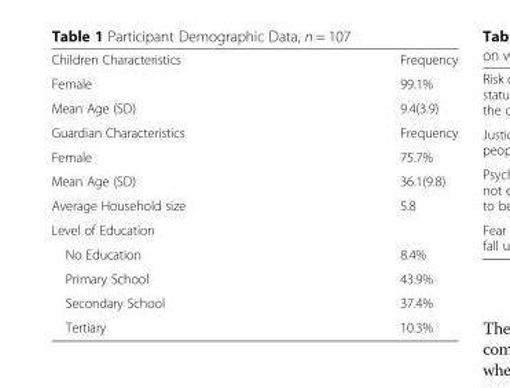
<table><tbody><tr><td>Children Characteristics</td><td>Frequency</td></tr><tr><td>Female</td><td>99.1%</td></tr><tr><td>Mean Age (SD)</td><td>9.4(3.9)</td></tr><tr><td>Guardian Characteristics</td><td>Frequency</td></tr><tr><td>Female</td><td>75.7%</td></tr><tr><td>Mean Age (SD)</td><td>36.1(9.8)</td></tr><tr><td>Average Household size</td><td>5.8</td></tr><tr><td colspan="2">Level of Education</td></tr><tr><td>No Education</td><td>8.4%</td></tr><tr><td>Primary School</td><td>43.9%</td></tr><tr><td>Secondary School</td><td>37.4%</td></tr><tr><td>Tertiary</td><td>10.3%</td></tr></tbody></table>